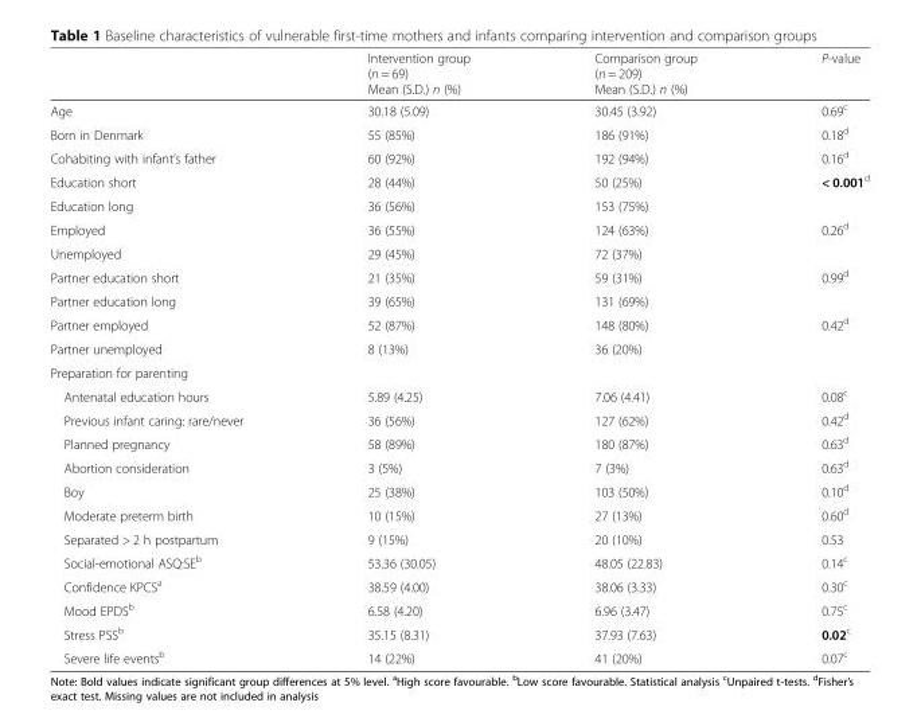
<table><thead><tr><td></td><td>Intervention group (n = 69) Mean (S.D.) n (%)</td><td>Comparison group (n = 209) Mean (S.D.) n (%)</td><td>P-value</td></tr></thead><tbody><tr><td>Age</td><td>30.18 (5.09)</td><td>30.45 (3.92)</td><td>0.69<sup>c</sup></td></tr><tr><td>Born in Denmark</td><td>55 (85%)</td><td>186 (91%)</td><td>0.18<sup>d</sup></td></tr><tr><td>Cohabiting with infant’s father</td><td>60 (92%)</td><td>192 (94%)</td><td>0.16<sup>d</sup></td></tr><tr><td>Education short</td><td>28 (44%)</td><td>50 (25%)</td><td rowspan="2">&lt; 0.001<sup>d</sup></td></tr><tr><td>Education long</td><td>36 (56%)</td><td>153 (75%)</td></tr><tr><td>Employed</td><td>36 (55%)</td><td>124 (63%)</td><td rowspan="2">0.26<sup>d</sup></td></tr><tr><td>Unemployed</td><td>29 (45%)</td><td>72 (37%)</td></tr><tr><td>Partner education short</td><td>21 (35%)</td><td>59 (31%)</td><td>0.99<sup>d</sup></td></tr><tr><td>Partner education long</td><td>39 (65%)</td><td>131 (69%)</td><td></td></tr><tr><td>Partner employed</td><td>52 (87%)</td><td>148 (80%)</td><td rowspan="2">0.42<sup>d</sup></td></tr><tr><td>Partner unemployed</td><td>8 (13%)</td><td>36 (20%)</td></tr><tr><td colspan="4">Preparation for parenting</td></tr><tr><td>Antenatal education hours</td><td>5.89 (4.25)</td><td>7.06 (4.41)</td><td>0.08<sup>c</sup></td></tr><tr><td>Previous infant caring: rare/never</td><td>36 (56%)</td><td>127 (62%)</td><td>0.42<sup>d</sup></td></tr><tr><td>Planned pregnancy</td><td>58 (89%)</td><td>180 (87%)</td><td>0.63<sup>d</sup></td></tr><tr><td>Abortion consideration</td><td>3 (5%)</td><td>7 (3%)</td><td>0.63<sup>d</sup></td></tr><tr><td>Boy</td><td>25 (38%)</td><td>103 (50%)</td><td>0.10<sup>d</sup></td></tr><tr><td>Moderate preterm birth</td><td>10 (15%)</td><td>27 (13%)</td><td>0.60<sup>d</sup></td></tr><tr><td>Separated &gt; 2 h postpartum</td><td>9 (15%)</td><td>20 (10%)</td><td>0.53</td></tr><tr><td>Social-emotional ASQ:SE<sup>b</sup></td><td>53.36 (30.05)</td><td>48.05 (22.83)</td><td>0.14<sup>c</sup></td></tr><tr><td>Confidence KPCS<sup>a</sup></td><td>38.59 (4.00)</td><td>38.06 (3.33)</td><td>0.30<sup>c</sup></td></tr><tr><td>Mood EPDS<sup>b</sup></td><td>6.58 (4.20)</td><td>6.96 (3.47)</td><td>0.75<sup>c</sup></td></tr><tr><td>Stress PSS<sup>b</sup></td><td>35.15 (8.31)</td><td>37.93 (7.63)</td><td>0.02<sup>c</sup></td></tr><tr><td>Severe life events<sup>b</sup></td><td>14 (22%)</td><td>41 (20%)</td><td>0.07<sup>c</sup></td></tr></tbody></table>